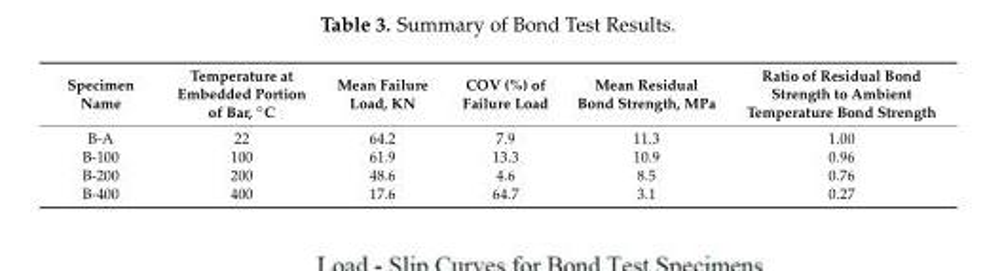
<table><thead><tr><td>Specimen Name</td><td>Temperature at Embedded Portion of Bar, ◦C</td><td>Mean Failure Load, KN</td><td>COV (%) of Failure Load</td><td>Mean Residual Bond Strength, MPa</td><td>Ratio of Residual Bond Strength to Ambient Temperature Bond Strength</td></tr></thead><tbody><tr><td>B-A</td><td>22</td><td>64.2</td><td>7.9</td><td>11.3</td><td>1.00</td></tr><tr><td>B-100</td><td>100</td><td>61.9</td><td>13.3</td><td>10.9</td><td>0.96</td></tr><tr><td>B-200</td><td>200</td><td>48.6</td><td>4.6</td><td>8.5</td><td>0.76</td></tr><tr><td>B-400</td><td>400</td><td>17.6</td><td>64.7</td><td>3.1</td><td>0.27</td></tr></tbody></table>